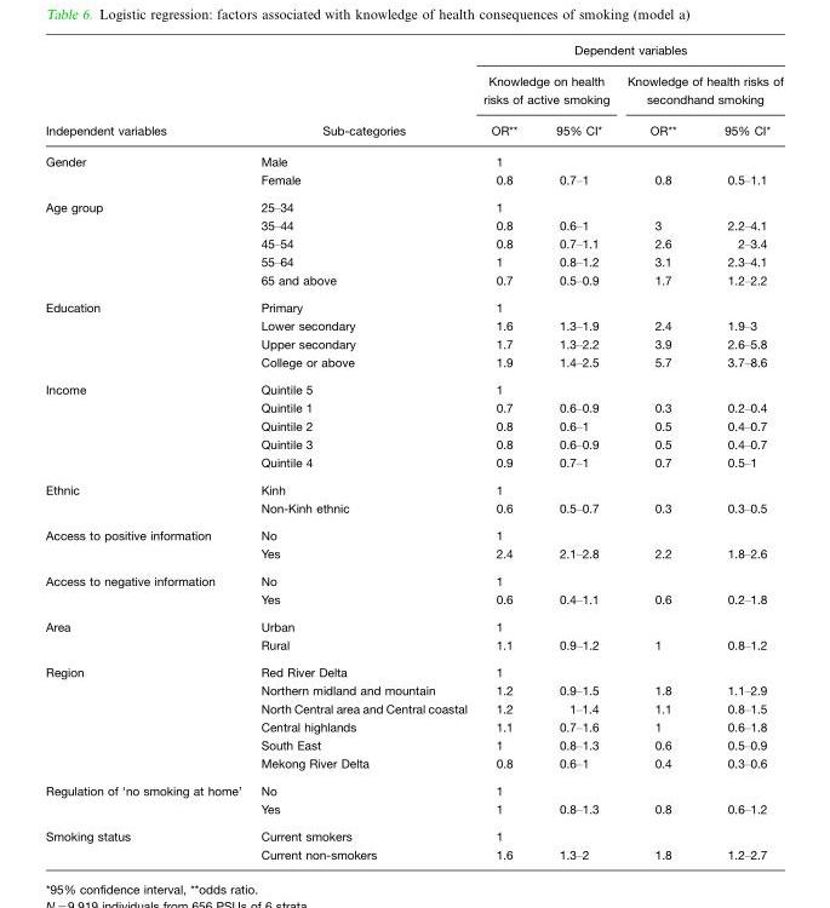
<table><thead><tr><td rowspan="3">Independent variables</td><td rowspan="3">Sub-categories</td><td colspan="4">Dependent variables</td></tr><tr><td colspan="2">Knowledge on health risks of active smoking</td><td colspan="2">Knowledge of health risks of secondhand smoking</td></tr><tr><td>OR**</td><td>95% CI*</td><td>OR**</td><td>95% CI*</td></tr></thead><tbody><tr><td rowspan="2">Gender</td><td>Male</td><td>1</td><td></td><td></td><td></td></tr><tr><td>Female</td><td>0.8</td><td>0.7–1</td><td>0.8</td><td>0.5–1.1</td></tr><tr><td rowspan="5">Age group</td><td>25–34</td><td>1</td><td></td><td></td><td></td></tr><tr><td>35–44</td><td>0.8</td><td>0.6–1</td><td>3</td><td>2.2–4.1</td></tr><tr><td>45–54</td><td>0.8</td><td>0.7–1.1</td><td>2.6</td><td>2–3.4</td></tr><tr><td>55–64</td><td>1</td><td>0.8–1.2</td><td>3.1</td><td>2.3–4.1</td></tr><tr><td>65 and above</td><td>0.7</td><td>0.5–0.9</td><td>1.7</td><td>1.2–2.2</td></tr><tr><td rowspan="4">Education</td><td>Primary</td><td>1</td><td></td><td></td><td></td></tr><tr><td>Lower secondary</td><td>1.6</td><td>1.3–1.9</td><td>2.4</td><td>1.9–3</td></tr><tr><td>Upper secondary</td><td>1.7</td><td>1.3–2.2</td><td>3.9</td><td>2.6–5.8</td></tr><tr><td>College or above</td><td>1.9</td><td>1.4–2.5</td><td>5.7</td><td>3.7–8.6</td></tr><tr><td rowspan="5">Income</td><td>Quintile 5</td><td>1</td><td></td><td></td><td></td></tr><tr><td>Quintile 1</td><td>0.7</td><td>0.6–0.9</td><td>0.3</td><td>0.2–0.4</td></tr><tr><td>Quintile 2</td><td>0.8</td><td>0.6–1</td><td>0.5</td><td>0.4–0.7</td></tr><tr><td>Quintile 3</td><td>0.8</td><td>0.6–0.9</td><td>0.5</td><td>0.4–0.7</td></tr><tr><td>Quintile 4</td><td>0.9</td><td>0.7–1</td><td>0.7</td><td>0.5–1</td></tr><tr><td rowspan="2">Ethnic</td><td>Kinh</td><td>1</td><td></td><td></td><td></td></tr><tr><td>Non-Kinh ethnic</td><td>0.6</td><td>0.5–0.7</td><td>0.3</td><td>0.3–0.5</td></tr><tr><td rowspan="2">Access to positive information</td><td>No</td><td>1</td><td></td><td></td><td></td></tr><tr><td>Yes</td><td>2.4</td><td>2.1–2.8</td><td>2.2</td><td>1.8–2.6</td></tr><tr><td rowspan="2">Access to negative information</td><td>No</td><td>1</td><td></td><td></td><td></td></tr><tr><td>Yes</td><td>0.6</td><td>0.4–1.1</td><td>0.6</td><td>0.2–1.8</td></tr><tr><td rowspan="2">Area</td><td>Urban</td><td>1</td><td></td><td></td><td></td></tr><tr><td>Rural</td><td>1.1</td><td>0.9–1.2</td><td>1</td><td>0.8–1.2</td></tr><tr><td rowspan="6">Region</td><td>Red River Delta</td><td>1</td><td></td><td></td><td></td></tr><tr><td>Northern midland and mountain</td><td>1.2</td><td>0.9–1.5</td><td>1.8</td><td>1.1–2.9</td></tr><tr><td>North Central area and Central coastal</td><td>1.2</td><td>1–1.4</td><td>1.1</td><td>0.8–1.5</td></tr><tr><td>Central highlands</td><td>1.1</td><td>0.7–1.6</td><td>1</td><td>0.6–1.8</td></tr><tr><td>South East</td><td>1</td><td>0.8–1.3</td><td>0.6</td><td>0.5–0.9</td></tr><tr><td>Mekong River Delta</td><td>0.8</td><td>0.6–1</td><td>0.4</td><td>0.3–0.6</td></tr><tr><td rowspan="2">Regulation of ‘no smoking at home’</td><td>No</td><td>1</td><td></td><td></td><td></td></tr><tr><td>Yes</td><td>1</td><td>0.8–1.3</td><td>0.8</td><td>0.6–1.2</td></tr><tr><td rowspan="2">Smoking status</td><td>Current smokers</td><td>1</td><td></td><td></td><td></td></tr><tr><td>Current non-smokers</td><td>1.6</td><td>1.3–2</td><td>1.8</td><td>1.2–2.7</td></tr></tbody></table>